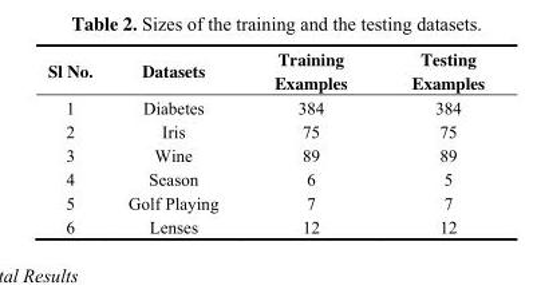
<table><thead><tr><td>Sl No.</td><td>Datasets</td><td>Training Examples</td><td>Testing Examples</td></tr></thead><tbody><tr><td>1</td><td>Diabetes</td><td>384</td><td>384</td></tr><tr><td>2</td><td>Iris</td><td>75</td><td>75</td></tr><tr><td>3</td><td>Wine</td><td>89</td><td>89</td></tr><tr><td>4</td><td>Season</td><td>6</td><td>5</td></tr><tr><td>5</td><td>Golf Playing</td><td>7</td><td>7</td></tr><tr><td>6</td><td>Lenses</td><td>12</td><td>12</td></tr></tbody></table>